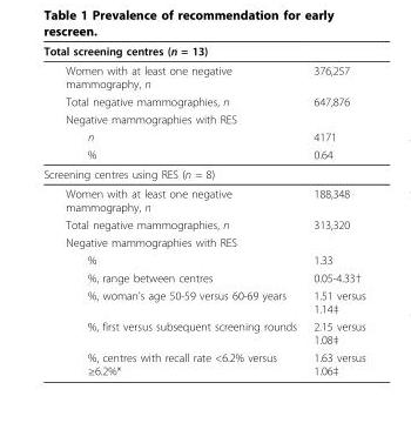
<table><tbody><tr><td colspan="2">Total screening centres (n = 13)</td></tr><tr><td>Women with at least one negative mammography, n</td><td>376,257</td></tr><tr><td>Total negative mammographies, n</td><td>647,876</td></tr><tr><td colspan="2">Negative mammographies with RES</td></tr><tr><td>n</td><td>4171</td></tr><tr><td>%</td><td>0.64</td></tr><tr><td colspan="2">Screening centres using RES (n = 8)</td></tr><tr><td>Women with at least one negative mammography, n</td><td>188,348</td></tr><tr><td>Total negative mammographies, n</td><td>313,320</td></tr><tr><td colspan="2">Negative mammographies with RES</td></tr><tr><td>%</td><td>1.33</td></tr><tr><td>%, range between centres</td><td>0.05-4.33†</td></tr><tr><td>%, woman’s age 50-59 versus 60-69 years</td><td>1.51 versus 1.14‡</td></tr><tr><td>%, first versus subsequent screening rounds</td><td>2.15 versus 1.08‡</td></tr><tr><td>%, centres with recall rate &lt;6.2% versus ≥6.2%*</td><td>1.63 versus 1.06‡</td></tr></tbody></table>